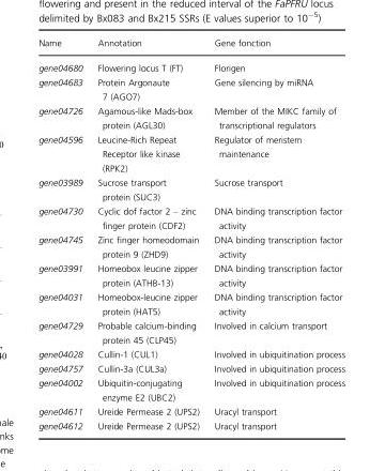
<table><thead><tr><td>Name</td><td>Annotation</td><td>Gene fonction</td></tr></thead><tbody><tr><td>gene04680</td><td>Flowering locus T (FT)</td><td>Florigen</td></tr><tr><td>gene04683</td><td>Protein Argonaute 7 (AGO7)</td><td>Gene silencing by miRNA</td></tr><tr><td>gene04726</td><td>Agamous-like Mads-box protein (AGL30)</td><td>Member of the MIKC family of transcriptional regulators</td></tr><tr><td>gene04596</td><td>Leucine-Rich Repeat Receptor like kinase (RPK2)</td><td>Regulator of meristem maintenance</td></tr><tr><td>gene03989</td><td>Sucrose transport protein (SUC3)</td><td>Sucrose transport</td></tr><tr><td>gene04730</td><td>Cyclic dof factor 2 – zinc finger protein (CDF2)</td><td>DNA binding transcription factor activity</td></tr><tr><td>gene04745</td><td>Zinc finger homeodomain protein 9 (ZHD9)</td><td>DNA binding transcription factor activity</td></tr><tr><td>gene03991</td><td>Homeobox leucine zipper protein (ATHB-13)</td><td>DNA binding transcription factor activity</td></tr><tr><td>gene04031</td><td>Homeobox-leucine zipper protein (HAT5)</td><td>DNA binding transcription factor activity</td></tr><tr><td>gene04729</td><td>Probable calcium-binding protein 45 (CLP45)</td><td>Involved in calcium transport</td></tr><tr><td>gene04028</td><td>Cullin-1 (CUL1)</td><td>Involved in ubiquitination process</td></tr><tr><td>gene04757</td><td>Cullin-3a (CUL3a)</td><td>Involved in ubiquitination process</td></tr><tr><td>gene04002</td><td>Ubiquitin-conjugating enzyme E2 (UBC2)</td><td>Involved in ubiquitination process</td></tr><tr><td>gene04611</td><td>Ureide Permease 2 (UPS2)</td><td>Uracyl transport</td></tr><tr><td>gene04612</td><td>Ureide Permease 2 (UPS2)</td><td>Uracyl transport</td></tr></tbody></table>